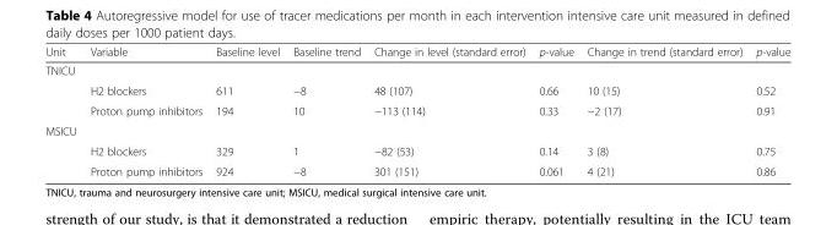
<table><thead><tr><td>Unit</td><td>Variable</td><td>Baseline level</td><td>Baseline trend</td><td>Change in level (standard error)</td><td>p-value</td><td>Change in trend (standard error)</td><td>p-value</td></tr></thead><tbody><tr><td colspan="8">TNICU</td></tr><tr><td></td><td>H2 blockers</td><td>611</td><td>−8</td><td>48 (107)</td><td>0.66</td><td>10 (15)</td><td>0.52</td></tr><tr><td></td><td>Proton pump inhibitors</td><td>194</td><td>10</td><td>−113 (114)</td><td>0.33</td><td>−2 (17)</td><td>0.91</td></tr><tr><td colspan="8">MSICU</td></tr><tr><td></td><td>H2 blockers</td><td>329</td><td>1</td><td>−82 (53)</td><td>0.14</td><td>3 (8)</td><td>0.75</td></tr><tr><td></td><td>Proton pump inhibitors</td><td>924</td><td>−8</td><td>301 (151)</td><td>0.061</td><td>4 (21)</td><td>0.86</td></tr></tbody></table>